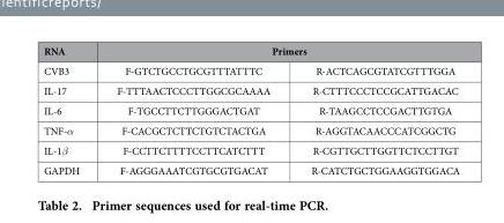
<table><thead><tr><td rowspan="2">RNA CVB3</td><td colspan="2">Primers</td></tr><tr><td>F-GTCTGCCTGCGTTTATTTC</td><td>R-ACTCAGCGTATCGTTTGGA</td></tr></thead><tbody><tr><td>IL-17</td><td>F-TTTAACTCCCTTGGCGCAAAA</td><td>R-CTTTCCCTCCGCATTGACAC</td></tr><tr><td>IL-6</td><td>F-TGCCTTCTTGGGACTGAT</td><td>R-TAAGCCTCCGACTTGTGA</td></tr><tr><td>TNF-α</td><td>F-CACGCTCTTCTGTCTACTGA</td><td>R-AGGTACAACCCATCGGCTG</td></tr><tr><td>IL-1β</td><td>F-CCTTCTTTTCCTTCATCTTT</td><td>R-CGTTGCTTGGTTCTCCTTGT</td></tr><tr><td>GAPDH</td><td>F-AGGGAAATCGTGCGTGACAT</td><td>R-CATCTGCTGGAAGGTGGACA</td></tr></tbody></table>